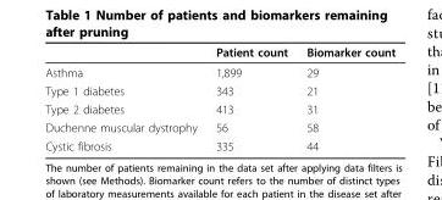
<table><thead><tr><td></td><td>Patient count</td><td>Biomarker count</td></tr></thead><tbody><tr><td>Asthma</td><td>1,899</td><td>29</td></tr><tr><td>Type 1 diabetes</td><td>343</td><td>21</td></tr><tr><td>Type 2 diabetes</td><td>413</td><td>31</td></tr><tr><td>Duchenne muscular dystrophy</td><td>56</td><td>58</td></tr><tr><td>Cystic fibrosis</td><td>335</td><td>44</td></tr></tbody></table>